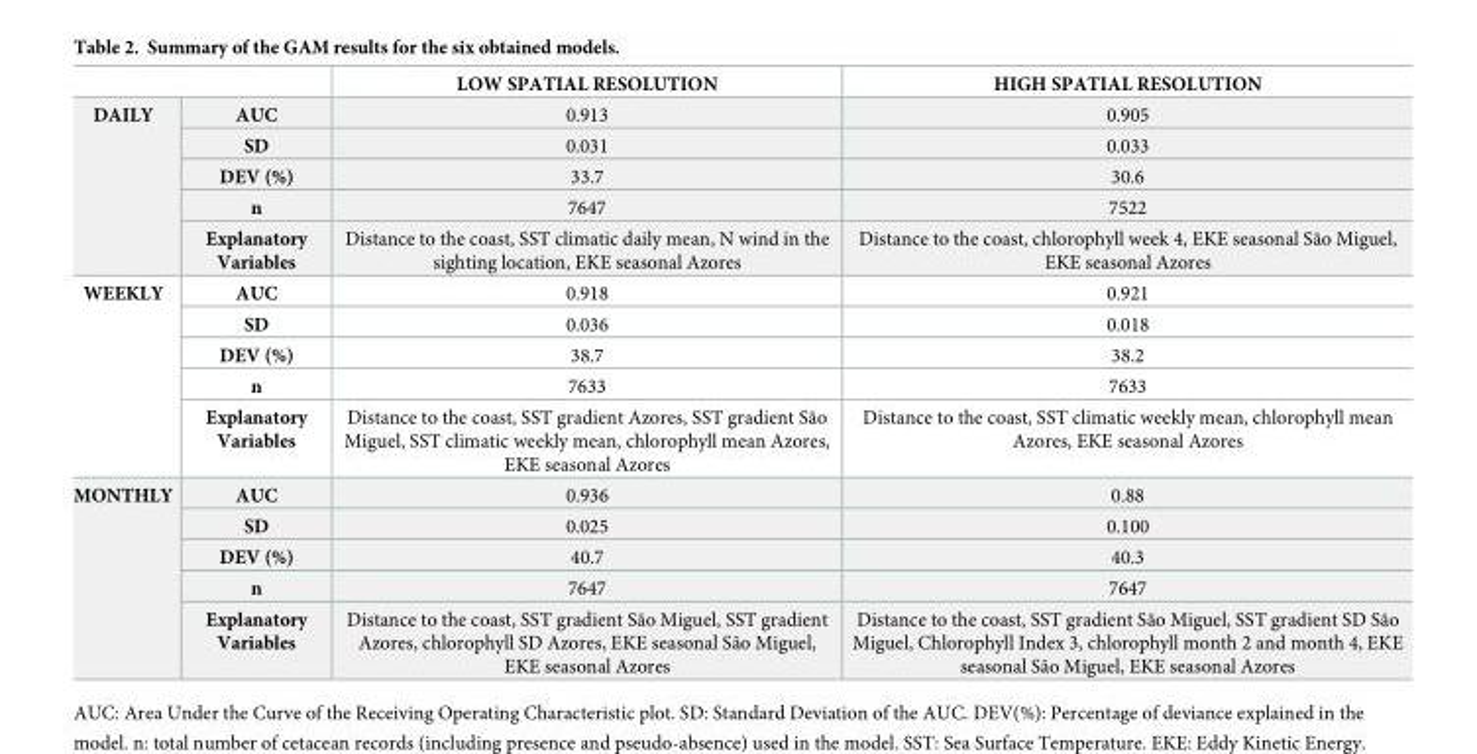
<table><thead><tr><td></td><td></td><td>LOW SPATIAL RESOLUTION</td><td>HIGH SPATIAL RESOLUTION</td></tr></thead><tbody><tr><td rowspan="5">DAILY</td><td>AUC</td><td>0.913</td><td>0.905</td></tr><tr><td>SD</td><td>0.031</td><td>0.033</td></tr><tr><td>DEV (%)</td><td>33.7</td><td>30.6</td></tr><tr><td>n</td><td>7647</td><td>7522</td></tr><tr><td>Explanatory Variables</td><td>Distance to the coast, SST climatic daily mean, N wind in the sighting location, EKE seasonal Azores</td><td>Distance to the coast, chlorophyll week 4, EKE seasonal São Miguel, EKE seasonal Azores</td></tr><tr><td rowspan="5">WEEKLY</td><td>AUC</td><td>0.918</td><td>0.921</td></tr><tr><td>SD</td><td>0.036</td><td>0.018</td></tr><tr><td>DEV (%)</td><td>38.7</td><td>38.2</td></tr><tr><td>n</td><td>7633</td><td>7633</td></tr><tr><td>Explanatory Variables</td><td>Distance to the coast, SST gradient Azores, SST gradient São Miguel, SST climatic weekly mean, chlorophyll mean Azores, EKE seasonal Azores</td><td>Distance to the coast, SST climatic weekly mean, chlorophyll mean Azores, EKE seasonal Azores</td></tr><tr><td rowspan="5">MONTHLY</td><td>AUC</td><td>0.936</td><td>0.88</td></tr><tr><td>SD</td><td>0.025</td><td>0.100</td></tr><tr><td>DEV (%)</td><td>40.7</td><td>40.3</td></tr><tr><td>n</td><td>7647</td><td>7647</td></tr><tr><td>Explanatory Variables</td><td>Distance to the coast, SST gradient São Miguel, SST gradient Azores, chlorophyll SD Azores, EKE seasonal São Miguel, EKE seasonal Azores</td><td>Distance to the coast, SST gradient São Miguel, SST gradient SD São Miguel, Chlorophyll Index 3, chlorophyll month 2 and month 4, EKE seasonal São Miguel, EKE seasonal Azores</td></tr></tbody></table>